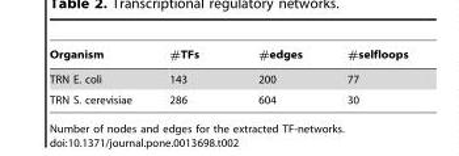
<table><thead><tr><td>Organism</td><td>#TFs</td><td>#edges</td><td>#selfloops</td></tr></thead><tbody><tr><td>TRN E. coli</td><td>143</td><td>200</td><td>77</td></tr><tr><td>TRN S. cerevisiae</td><td>286</td><td>604</td><td>30</td></tr></tbody></table>